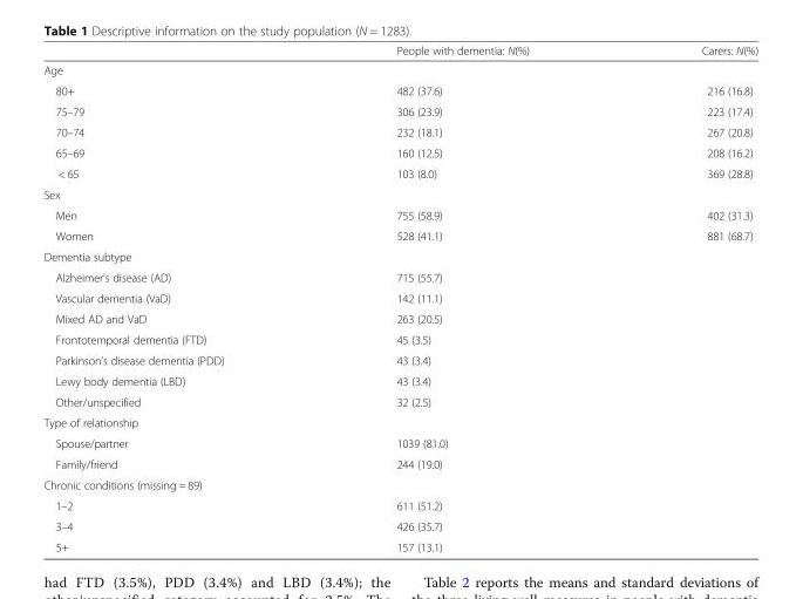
<table><thead><tr><td></td><td>People with dementia: N(%)</td><td>Carers: N(%)</td></tr></thead><tbody><tr><td colspan="3">Age</td></tr><tr><td>80+</td><td>482 (37.6)</td><td>216 (16.8)</td></tr><tr><td>75–79</td><td>306 (23.9)</td><td>223 (17.4)</td></tr><tr><td>70–74</td><td>232 (18.1)</td><td>267 (20.8)</td></tr><tr><td>65–69</td><td>160 (12.5)</td><td>208 (16.2)</td></tr><tr><td>&lt; 65</td><td>103 (8.0)</td><td>369 (28.8)</td></tr><tr><td colspan="3">Sex</td></tr><tr><td>Men</td><td>755 (58.9)</td><td>402 (31.3)</td></tr><tr><td>Women</td><td>528 (41.1)</td><td>881 (68.7)</td></tr><tr><td colspan="3">Dementia subtype</td></tr><tr><td>Alzheimer’s disease (AD)</td><td>715 (55.7)</td><td></td></tr><tr><td>Vascular dementia (VaD)</td><td>142 (11.1)</td><td></td></tr><tr><td>Mixed AD and VaD</td><td>263 (20.5)</td><td></td></tr><tr><td>Frontotemporal dementia (FTD)</td><td>45 (3.5)</td><td></td></tr><tr><td>Parkinson’s disease dementia (PDD)</td><td>43 (3.4)</td><td></td></tr><tr><td>Lewy body dementia (LBD)</td><td>43 (3.4)</td><td></td></tr><tr><td>Other/unspecified</td><td>32 (2.5)</td><td></td></tr><tr><td colspan="3">Type of relationship</td></tr><tr><td>Spouse/partner</td><td>1039 (81.0)</td><td></td></tr><tr><td>Family/friend</td><td>244 (19.0)</td><td></td></tr><tr><td colspan="3">Chronic conditions (missing = 89)</td></tr><tr><td>1–2</td><td>611 (51.2)</td><td></td></tr><tr><td>3–4</td><td>426 (35.7)</td><td></td></tr><tr><td>5+</td><td>157 (13.1)</td><td></td></tr></tbody></table>